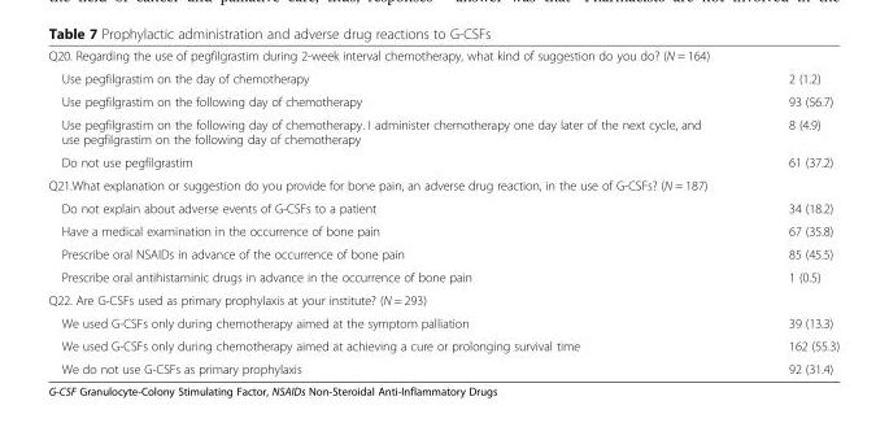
<table><tbody><tr><td colspan="2">Q20. Regarding the use of pegfilgrastim during 2-week interval chemotherapy, what kind of suggestion do you do? (N = 164)</td></tr><tr><td>Use pegfilgrastim on the day of chemotherapy</td><td>2 (1.2)</td></tr><tr><td>Use pegfilgrastim on the following day of chemotherapy</td><td>93 (56.7)</td></tr><tr><td>Use pegfilgrastim on the following day of chemotherapy. I administer chemotherapy one day later of the next cycle, and use pegfilgrastim on the following day of chemotherapy</td><td>8 (4.9)</td></tr><tr><td>Do not use pegfilgrastim</td><td>61 (37.2)</td></tr><tr><td colspan="2">Q21.What explanation or suggestion do you provide for bone pain, an adverse drug reaction, in the use of G-CSFs? (N = 187)</td></tr><tr><td>Do not explain about adverse events of G-CSFs to a patient</td><td>34 (18.2)</td></tr><tr><td>Have a medical examination in the occurrence of bone pain</td><td>67 (35.8)</td></tr><tr><td>Prescribe oral NSAIDs in advance of the occurrence of bone pain</td><td>85 (45.5)</td></tr><tr><td>Prescribe oral antihistaminic drugs in advance in the occurrence of bone pain</td><td>1 (0.5)</td></tr><tr><td colspan="2">Q22. Are G-CSFs used as primary prophylaxis at your institute? (N = 293)</td></tr><tr><td>We used G-CSFs only during chemotherapy aimed at the symptom palliation</td><td>39 (13.3)</td></tr><tr><td>We used G-CSFs only during chemotherapy aimed at achieving a cure or prolonging survival time</td><td>162 (55.3)</td></tr><tr><td>We do not use G-CSFs as primary prophylaxis</td><td>92 (31.4)</td></tr></tbody></table>